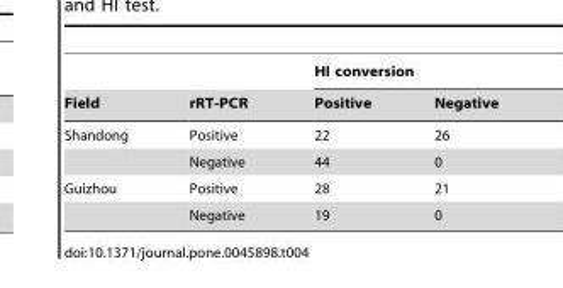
<table><thead><tr><td rowspan="2">Field</td><td rowspan="2">rRT-PCR</td><td colspan="2">HI conversion</td></tr><tr><td>Positive</td><td>Negative</td></tr></thead><tbody><tr><td rowspan="2">Shandong</td><td>Positive</td><td>22</td><td>26</td></tr><tr><td>Negative</td><td>44</td><td>0</td></tr><tr><td rowspan="2">Guizhou</td><td>Positive</td><td>28</td><td>21</td></tr><tr><td>Negative</td><td>19</td><td>0</td></tr></tbody></table>